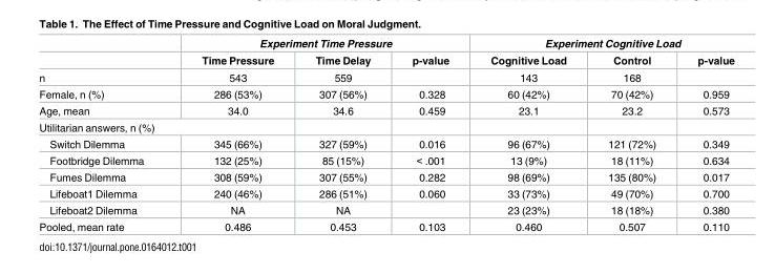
<table><thead><tr><td rowspan="2"></td><td colspan="3">Experiment Time Pressure</td><td colspan="3">Experiment Cognitive Load</td></tr><tr><td>Time Pressure</td><td>Time Delay</td><td>p-value</td><td>Cognitive Load</td><td>Control</td><td>p-value</td></tr></thead><tbody><tr><td>n</td><td>543</td><td>559</td><td></td><td>143</td><td>168</td><td></td></tr><tr><td>Female, n (%)</td><td>286 (53%)</td><td>307 (56%)</td><td>0.328</td><td>60 (42%)</td><td>70 (42%)</td><td>0.959</td></tr><tr><td>Age, mean</td><td>34.0</td><td>34.6</td><td>0.459</td><td>23.1</td><td>23.2</td><td>0.573</td></tr><tr><td colspan="7">Utilitarian answers, n (%)</td></tr><tr><td>Switch Dilemma</td><td>345 (66%)</td><td>327 (59%)</td><td>0.016</td><td>96 (67%)</td><td>121 (72%)</td><td>0.349</td></tr><tr><td>Footbridge Dilemma</td><td>132 (25%)</td><td>85 (15%)</td><td>&lt; .001</td><td>13 (9%)</td><td>18 (11%)</td><td>0.634</td></tr><tr><td>Fumes Dilemma</td><td>308 (59%)</td><td>307 (55%)</td><td>0.282</td><td>98 (69%)</td><td>135 (80%)</td><td>0.017</td></tr><tr><td>Lifeboat1 Dilemma</td><td>240 (46%)</td><td>286 (51%)</td><td>0.060</td><td>33 (73%)</td><td>49 (70%)</td><td>0.700</td></tr><tr><td>Lifeboat2 Dilemma</td><td>NA</td><td>NA</td><td></td><td>23 (23%)</td><td>18 (18%)</td><td>0.380</td></tr><tr><td>Pooled, mean rate</td><td>0.486</td><td>0.453</td><td>0.103</td><td>0.460</td><td>0.507</td><td>0.110</td></tr></tbody></table>